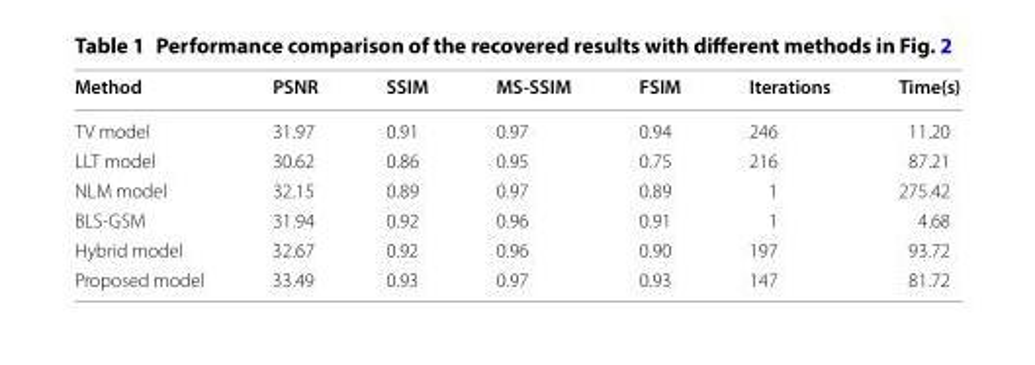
<table><thead><tr><td>Method</td><td>PSNR</td><td>SSIM</td><td>MS-SSIM</td><td>FSIM</td><td>Iterations</td><td>Time(s)</td></tr></thead><tbody><tr><td>TV model</td><td>31.97</td><td>0.91</td><td>0.97</td><td>0.94</td><td>246</td><td>11.20</td></tr><tr><td>LLT model</td><td>30.62</td><td>0.86</td><td>0.95</td><td>0.75</td><td>216</td><td>87.21</td></tr><tr><td>NLM model</td><td>32.15</td><td>0.89</td><td>0.97</td><td>0.89</td><td>1</td><td>275.42</td></tr><tr><td>BLS-GSM</td><td>31.94</td><td>0.92</td><td>0.96</td><td>0.91</td><td>1</td><td>4.68</td></tr><tr><td>Hybrid model</td><td>32.67</td><td>0.92</td><td>0.96</td><td>0.90</td><td>197</td><td>93.72</td></tr><tr><td>Proposed model</td><td>33.49</td><td>0.93</td><td>0.97</td><td>0.93</td><td>147</td><td>81.72</td></tr></tbody></table>